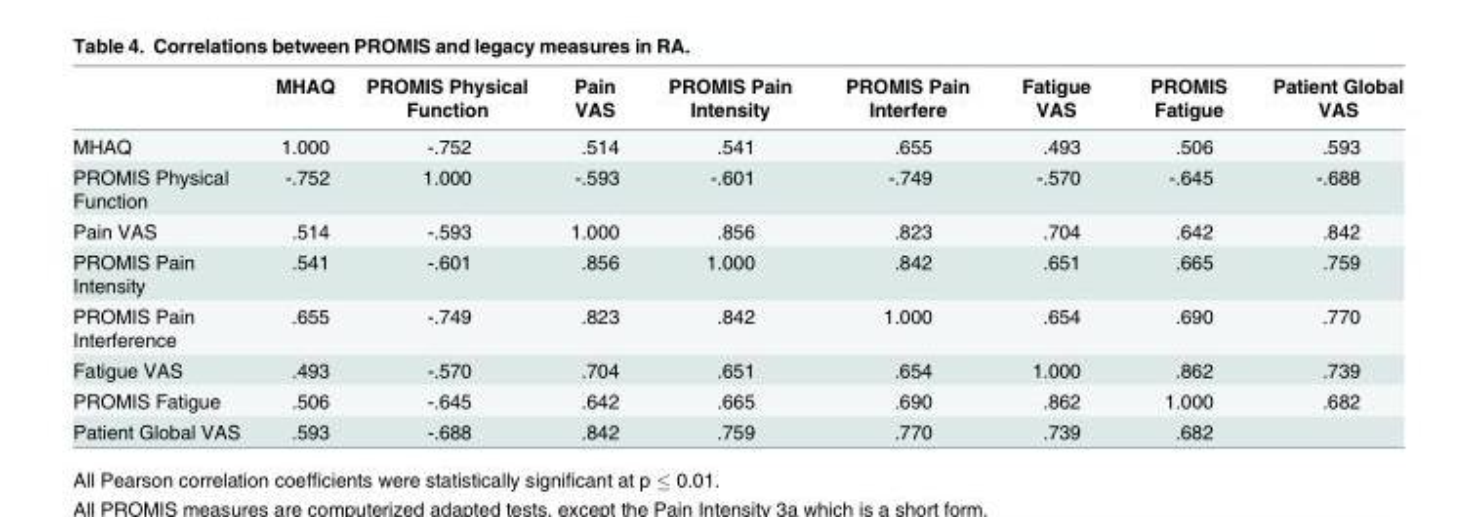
<table><thead><tr><td></td><td>MHAQ</td><td>PROMIS Physical Function</td><td>Pain VAS</td><td>PROMIS Pain Intensity</td><td>PROMIS Pain Interfere</td><td>Fatigue VAS</td><td>PROMIS Fatigue</td><td>Patient Global VAS</td></tr></thead><tbody><tr><td>MHAQ</td><td>1.000</td><td>-.752</td><td>.514</td><td>.541</td><td>.655</td><td>.493</td><td>.506</td><td>.593</td></tr><tr><td>PROMIS Physical Function</td><td>-.752</td><td>1.000</td><td>-.593</td><td>-.601</td><td>-.749</td><td>-.570</td><td>-.645</td><td>-.688</td></tr><tr><td>Pain VAS</td><td>.514</td><td>-.593</td><td>1.000</td><td>.856</td><td>.823</td><td>.704</td><td>.642</td><td>.842</td></tr><tr><td>PROMIS Pain Intensity</td><td>.541</td><td>-.601</td><td>.856</td><td>1.000</td><td>.842</td><td>.651</td><td>.665</td><td>.759</td></tr><tr><td>PROMIS Pain Interference</td><td>.655</td><td>-.749</td><td>.823</td><td>.842</td><td>1.000</td><td>.654</td><td>.690</td><td>.770</td></tr><tr><td>Fatigue VAS</td><td>.493</td><td>-.570</td><td>.704</td><td>.651</td><td>.654</td><td>1.000</td><td>.862</td><td>.739</td></tr><tr><td>PROMIS Fatigue</td><td>.506</td><td>-.645</td><td>.642</td><td>.665</td><td>.690</td><td>.862</td><td>1.000</td><td>.682</td></tr><tr><td>Patient Global VAS</td><td>.593</td><td>-.688</td><td>.842</td><td>.759</td><td>.770</td><td>.739</td><td>.682</td><td></td></tr></tbody></table>